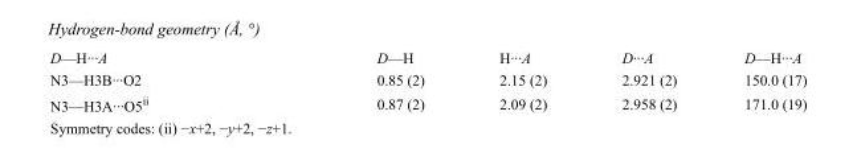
<table><tbody><tr><td>D—H···A</td><td>D—H</td><td>H···A</td><td>D···A</td><td>D—H···A</td></tr><tr><td>N3—H3B···O2</td><td>0.85 (2)</td><td>2.15 (2)</td><td>2.921 (2)</td><td>150.0 (17)</td></tr><tr><td>N3—H3A···O5<sup>ii</sup></td><td>0.87 (2)</td><td>2.09 (2)</td><td>2.958 (2)</td><td>171.0 (19)</td></tr></tbody></table>